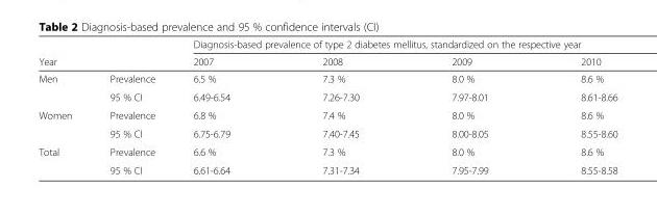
<table><thead><tr><td></td><td></td><td colspan="4">Diagnosis-based prevalence of type 2 diabetes mellitus, standardized on the respective year</td></tr><tr><td colspan="2">Year</td><td>2007</td><td>2008</td><td>2009</td><td>2010</td></tr></thead><tbody><tr><td rowspan="2">Men</td><td>Prevalence</td><td>6.5 %</td><td>7.3 %</td><td>8.0 %</td><td>8.6 %</td></tr><tr><td>95 % CI</td><td>6.49-6.54</td><td>7.26-7.30</td><td>7.97-8.01</td><td>8.61-8.66</td></tr><tr><td rowspan="2">Women</td><td>Prevalence</td><td>6.8 %</td><td>7.4 %</td><td>8.0 %</td><td>8.6 %</td></tr><tr><td>95 % CI</td><td>6.75-6.79</td><td>7.40-7.45</td><td>8.00-8.05</td><td>8.55-8.60</td></tr><tr><td rowspan="2">Total</td><td>Prevalence</td><td>6.6 %</td><td>7.3 %</td><td>8.0 %</td><td>8.6 %</td></tr><tr><td>95 % CI</td><td>6.61-6.64</td><td>7.31-7.34</td><td>7.95-7.99</td><td>8.55-8.58</td></tr></tbody></table>